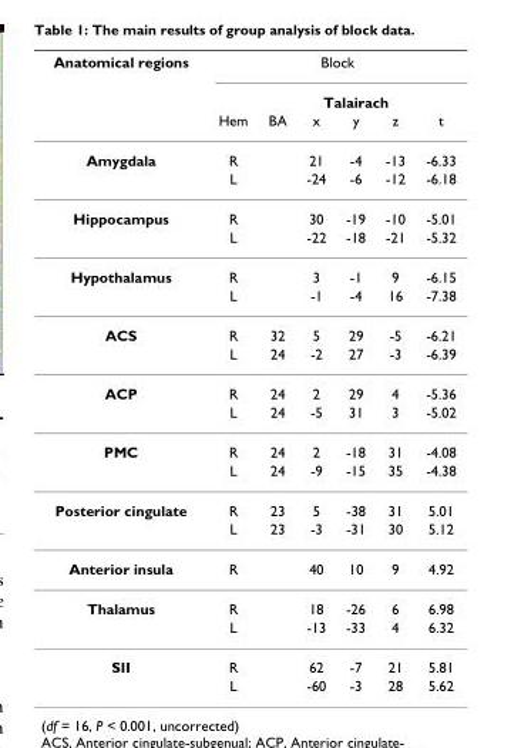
<table><thead><tr><td rowspan="3">Anatomical regions</td><td colspan="6">Block</td></tr><tr><td rowspan="2">Hem</td><td rowspan="2">BA</td><td colspan="3">Talairach</td><td rowspan="2">t</td></tr><tr><td>x</td><td>y</td><td>z</td></tr></thead><tbody><tr><td rowspan="2">Amygdala</td><td>R</td><td></td><td>21</td><td>-4</td><td>-13</td><td>-6.33</td></tr><tr><td>L</td><td></td><td>-24</td><td>-6</td><td>-12</td><td>-6.18</td></tr><tr><td rowspan="2">Hippocampus</td><td>R</td><td></td><td>30</td><td>-19</td><td>-10</td><td>-5.01</td></tr><tr><td>L</td><td></td><td>-22</td><td>-18</td><td>-21</td><td>-5.32</td></tr><tr><td rowspan="2">Hypothalamus</td><td>R</td><td></td><td>3</td><td>-1</td><td>9</td><td>-6.15</td></tr><tr><td>L</td><td></td><td>-1</td><td>-4</td><td>16</td><td>-7.38</td></tr><tr><td rowspan="2">ACS</td><td>R</td><td>32</td><td>5</td><td>29</td><td>-5</td><td>-6.21</td></tr><tr><td>L</td><td>24</td><td>-2</td><td>27</td><td>-3</td><td>-6.39</td></tr><tr><td rowspan="2">ACP</td><td>R</td><td>24</td><td>2</td><td>29</td><td>4</td><td>-5.36</td></tr><tr><td>L</td><td>24</td><td>-5</td><td>31</td><td>3</td><td>-5.02</td></tr><tr><td rowspan="2">PMC</td><td>R</td><td>24</td><td>2</td><td>-18</td><td>31</td><td>-4.08</td></tr><tr><td>L</td><td>24</td><td>-9</td><td>-15</td><td>35</td><td>-4.38</td></tr><tr><td rowspan="2">Posterior cingulate</td><td>R</td><td>23</td><td>5</td><td>-38</td><td>31</td><td>5.01</td></tr><tr><td>L</td><td>23</td><td>-3</td><td>-31</td><td>30</td><td>5.12</td></tr><tr><td>Anterior insula</td><td>R</td><td></td><td>40</td><td>10</td><td>9</td><td>4.92</td></tr><tr><td rowspan="2">Thalamus</td><td>R</td><td></td><td>18</td><td>-26</td><td>6</td><td>6.98</td></tr><tr><td>L</td><td></td><td>-13</td><td>-33</td><td>4</td><td>6.32</td></tr><tr><td rowspan="2">SII</td><td>R</td><td></td><td>62</td><td>-7</td><td>21</td><td>5.81</td></tr><tr><td>L</td><td></td><td>-60</td><td>-3</td><td>28</td><td>5.62</td></tr></tbody></table>